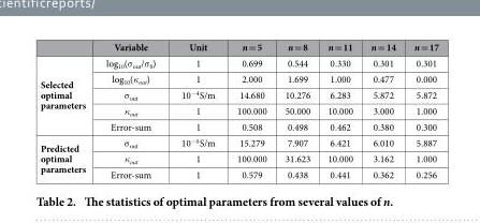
<table><thead><tr><td></td><td>Variable</td><td>Unit</td><td>n = 5</td><td>n = 8</td><td>n = 11</td><td>n = 14</td><td>n = 17</td></tr></thead><tbody><tr><td rowspan="5">Selected optimal parameters</td><td>log<sub>10</sub>(σ <sub>out</sub>/σ <sub>0</sub>)</td><td>1</td><td>0.699</td><td>0.544</td><td>0.330</td><td>0.301</td><td>0.301</td></tr><tr><td>log<sub>10</sub>(κ<sub>out</sub>)</td><td>1</td><td>2.000</td><td>1.699</td><td>1.000</td><td>0.477</td><td>0.000</td></tr><tr><td>σ <sub>out</sub></td><td>10<sup>−4</sup> S/m</td><td>14.680</td><td>10.276</td><td>6.283</td><td>5.872</td><td>5.872</td></tr><tr><td>κ<sub>out</sub></td><td>1</td><td>100.000</td><td>50.000</td><td>10.000</td><td>3.000</td><td>1.000</td></tr><tr><td>Error-sum</td><td>1</td><td>0.508</td><td>0.498</td><td>0.462</td><td>0.380</td><td>0.300</td></tr><tr><td rowspan="3">Predicted optimal parameters</td><td>σ <sub>out</sub></td><td>10<sup>−4</sup> S/m</td><td>15.279</td><td>7.907</td><td>6.421</td><td>6.010</td><td>5.887</td></tr><tr><td>κ<sub>out</sub></td><td>1</td><td>100.000</td><td>31.623</td><td>10.000</td><td>3.162</td><td>1.000</td></tr><tr><td>Error-sum</td><td>1</td><td>0.579</td><td>0.438</td><td>0.441</td><td>0.362</td><td>0.256</td></tr></tbody></table>